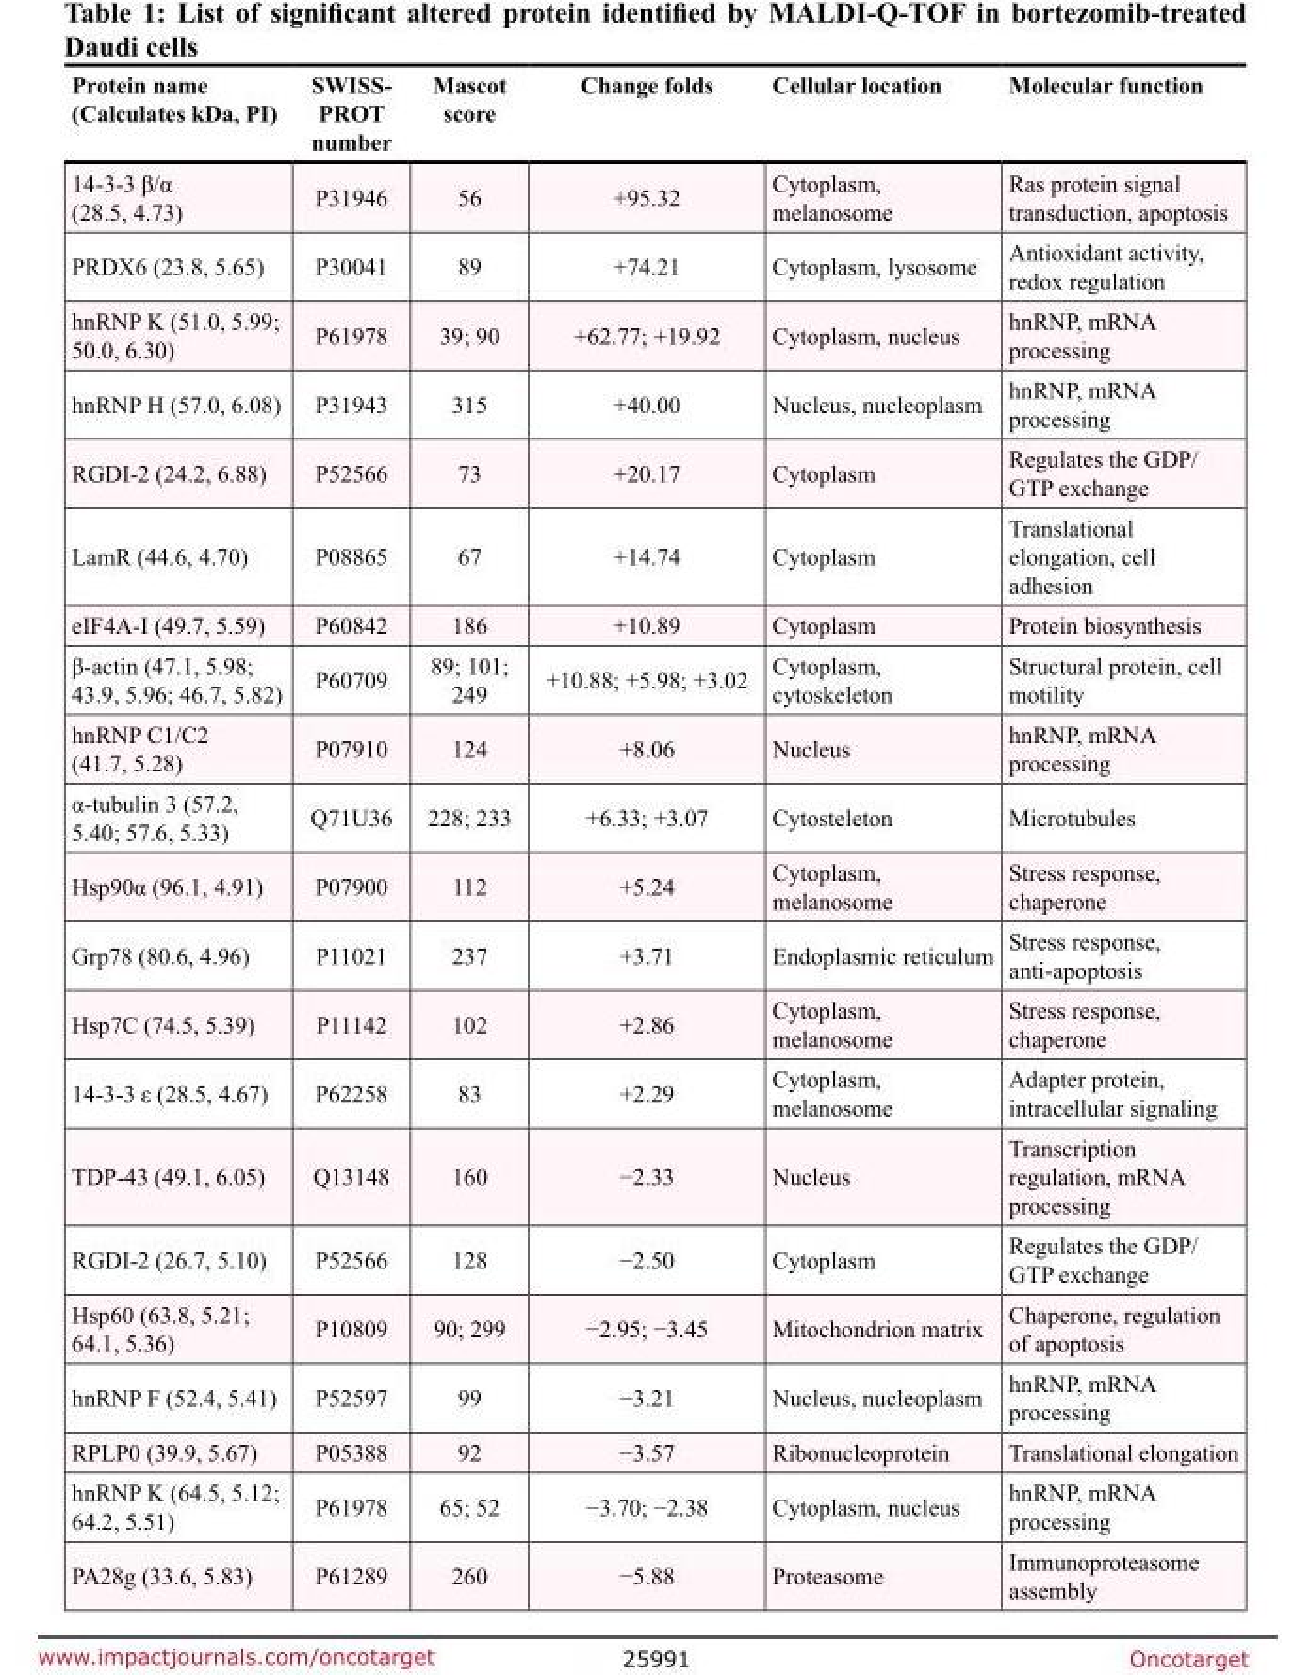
<table><thead><tr><td>Protein name (Calculates kDa, PI)</td><td>SWISS- PROT number</td><td>Mascot score</td><td>Change folds</td><td>Cellular location</td><td>Molecular function</td></tr></thead><tbody><tr><td>14-3-3 β/α (28.5, 4.73)</td><td>P31946</td><td>56</td><td>+95.32</td><td>Cytoplasm, melanosome</td><td>Ras protein signal transduction, apoptosis</td></tr><tr><td>PRDX6 (23.8, 5.65)</td><td>P30041</td><td>89</td><td>+74.21</td><td>Cytoplasm, lysosome</td><td>Antioxidant activity, redox regulation</td></tr><tr><td>hnRNP K (51.0, 5.99; 50.0, 6.30)</td><td>P61978</td><td>39; 90</td><td>+62.77; +19.92</td><td>Cytoplasm, nucleus</td><td>hnRNP, mRNA processing</td></tr><tr><td>hnRNP H (57.0, 6.08)</td><td>P31943</td><td>315</td><td>+40.00</td><td>Nucleus, nucleoplasm</td><td>hnRNP, mRNA processing</td></tr><tr><td>RGDI-2 (24.2, 6.88)</td><td>P52566</td><td>73</td><td>+20.17</td><td>Cytoplasm</td><td>Regulates the GDP/ GTP exchange</td></tr><tr><td>LamR (44.6, 4.70)</td><td>P08865</td><td>67</td><td>+14.74</td><td>Cytoplasm</td><td>Translational elongation, cell adhesion</td></tr><tr><td>eIF4A-I (49.7, 5.59)</td><td>P60842</td><td>186</td><td>+10.89</td><td>Cytoplasm</td><td>Protein biosynthesis</td></tr><tr><td>β-actin (47.1, 5.98; 43.9, 5.96; 46.7, 5.82)</td><td>P60709</td><td>89; 101; 249</td><td>+10.88; +5.98; +3.02</td><td>Cytoplasm, cytoskeleton</td><td>Structural protein, cell motility</td></tr><tr><td>hnRNP C1/C2 (41.7, 5.28)</td><td>P07910</td><td>124</td><td>+8.06</td><td>Nucleus</td><td>hnRNP, mRNA processing</td></tr><tr><td>α-tubulin 3 (57.2, 5.40; 57.6, 5.33)</td><td>Q71U36</td><td>228; 233</td><td>+6.33; +3.07</td><td>Cytosteleton</td><td>Microtubules</td></tr><tr><td>Hsp90α (96.1, 4.91)</td><td>P07900</td><td>112</td><td>+5.24</td><td>Cytoplasm, melanosome</td><td>Stress response, chaperone</td></tr><tr><td>Grp78 (80.6, 4.96)</td><td>P11021</td><td>237</td><td>+3.71</td><td>Endoplasmic reticulum</td><td>Stress response, anti-apoptosis</td></tr><tr><td>Hsp7C (74.5, 5.39)</td><td>P11142</td><td>102</td><td>+2.86</td><td>Cytoplasm, melanosome</td><td>Stress response, chaperone</td></tr><tr><td>14-3-3 ε (28.5, 4.67)</td><td>P62258</td><td>83</td><td>+2.29</td><td>Cytoplasm, melanosome</td><td>Adapter protein, intracellular signaling</td></tr><tr><td>TDP-43 (49.1, 6.05)</td><td>Q13148</td><td>160</td><td>−2.33</td><td>Nucleus</td><td>Transcription regulation, mRNA processing</td></tr><tr><td>RGDI-2 (26.7, 5.10)</td><td>P52566</td><td>128</td><td>−2.50</td><td>Cytoplasm</td><td>Regulates the GDP/ GTP exchange</td></tr><tr><td>Hsp60 (63.8, 5.21; 64.1, 5.36)</td><td>P10809</td><td>90; 299</td><td>−2.95; −3.45</td><td>Mitochondrion matrix</td><td>Chaperone, regulation of apoptosis</td></tr><tr><td>hnRNP F (52.4, 5.41)</td><td>P52597</td><td>99</td><td>−3.21</td><td>Nucleus, nucleoplasm</td><td>hnRNP, mRNA processing</td></tr><tr><td>RPLP0 (39.9, 5.67)</td><td>P05388</td><td>92</td><td>−3.57</td><td>Ribonucleoprotein</td><td>Translational elongation</td></tr><tr><td>hnRNP K (64.5, 5.12; 64.2, 5.51)</td><td>P61978</td><td>65; 52</td><td>−3.70; −2.38</td><td>Cytoplasm, nucleus</td><td>hnRNP, mRNA processing</td></tr><tr><td>PA28g (33.6, 5.83)</td><td>P61289</td><td>260</td><td>−5.88</td><td>Proteasome</td><td>Immunoproteasome assembly</td></tr></tbody></table>